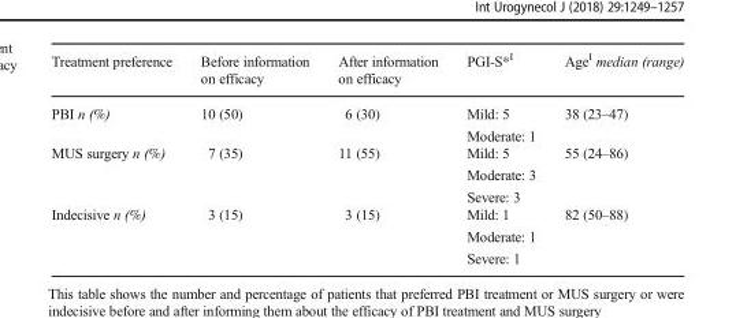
<table><thead><tr><td>Treatment preference</td><td>Before information on efficacy</td><td>After information on efficacy</td><td>PGI-S*<sup>I</sup></td><td>Age<sup>I</sup> median (range)</td></tr></thead><tbody><tr><td>PBI n (%)</td><td>10 (50)</td><td>6 (30)</td><td>Mild: 5 Moderate: 1</td><td>38 (23–47)</td></tr><tr><td>MUS surgery n (%)</td><td>7 (35)</td><td>11 (55)</td><td>Mild: 5 Moderate: 3 Severe: 3</td><td>55 (24–86)</td></tr><tr><td>Indecisive n (%)</td><td>3 (15)</td><td>3 (15)</td><td>Mild: 1 Moderate: 1 Severe: 1</td><td>82 (50–88)</td></tr></tbody></table>